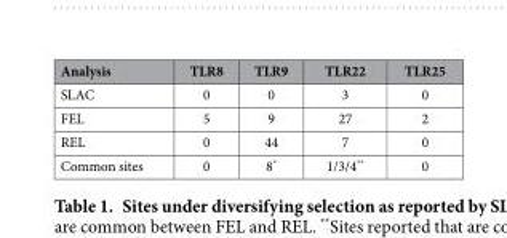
<table><thead><tr><td>Analysis</td><td>TLR8</td><td>TLR9</td><td>TLR22</td><td>TLR25</td></tr></thead><tbody><tr><td>SLAC</td><td>0</td><td>0</td><td>3</td><td>0</td></tr><tr><td>FEL</td><td>5</td><td>9</td><td>27</td><td>2</td></tr><tr><td>REL</td><td>0</td><td>44</td><td>7</td><td>0</td></tr><tr><td>Common sites</td><td>0</td><td>8*</td><td>1/3/4**</td><td>0</td></tr></tbody></table>